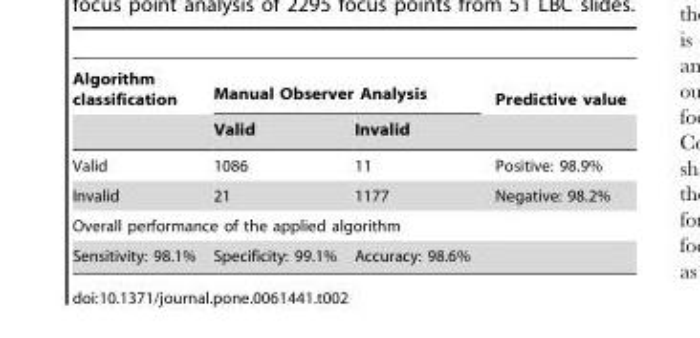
<table><thead><tr><td rowspan="2">Algorithm classification</td><td colspan="2">Manual Observer Analysis</td><td rowspan="2">Predictive value</td></tr><tr><td>Valid</td><td>Invalid</td></tr></thead><tbody><tr><td>Valid</td><td>1086</td><td>11</td><td>Positive: 98.9%</td></tr><tr><td>Invalid</td><td>21</td><td>1177</td><td>Negative: 98.2%</td></tr><tr><td colspan="4">Overall performance of the applied algorithm</td></tr><tr><td>Sensitivity: 98.1%</td><td>Specificity: 99.1%</td><td>Accuracy: 98.6%</td><td></td></tr></tbody></table>